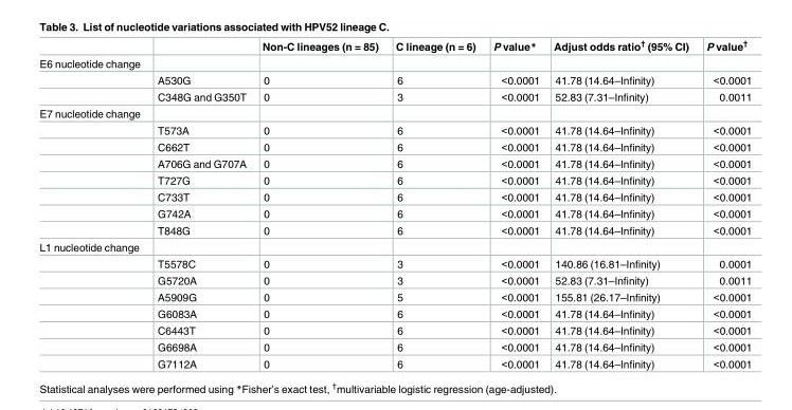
<table><thead><tr><td></td><td></td><td>Non-C lineages (n = 85)</td><td>C lineage (n = 6)</td><td>P value*</td><td>Adjust odds ratio<sup>†</sup> (95% CI)</td><td>P value<sup>†</sup></td></tr></thead><tbody><tr><td colspan="7">E6 nucleotide change</td></tr><tr><td></td><td>A530G</td><td>0</td><td>6</td><td>&lt;0.0001</td><td>41.78 (14.64–Infinity)</td><td>&lt;0.0001</td></tr><tr><td></td><td>C348G and G350T</td><td>0</td><td>3</td><td>&lt;0.0001</td><td>52.83 (7.31–Infinity)</td><td>0.0011</td></tr><tr><td colspan="7">E7 nucleotide change</td></tr><tr><td></td><td>T573A</td><td>0</td><td>6</td><td>&lt;0.0001</td><td>41.78 (14.64–Infinity)</td><td>&lt;0.0001</td></tr><tr><td></td><td>C662T</td><td>0</td><td>6</td><td>&lt;0.0001</td><td>41.78 (14.64–Infinity)</td><td>&lt;0.0001</td></tr><tr><td></td><td>A706G and G707A</td><td>0</td><td>6</td><td>&lt;0.0001</td><td>41.78 (14.64–Infinity)</td><td>&lt;0.0001</td></tr><tr><td></td><td>T727G</td><td>0</td><td>6</td><td>&lt;0.0001</td><td>41.78 (14.64–Infinity)</td><td>&lt;0.0001</td></tr><tr><td></td><td>C733T</td><td>0</td><td>6</td><td>&lt;0.0001</td><td>41.78 (14.64–Infinity)</td><td>&lt;0.0001</td></tr><tr><td></td><td>G742A</td><td>0</td><td>6</td><td>&lt;0.0001</td><td>41.78 (14.64–Infinity)</td><td>&lt;0.0001</td></tr><tr><td></td><td>T848G</td><td>0</td><td>6</td><td>&lt;0.0001</td><td>41.78 (14.64–Infinity)</td><td>&lt;0.0001</td></tr><tr><td colspan="7">L1 nucleotide change</td></tr><tr><td></td><td>T5578C</td><td>0</td><td>3</td><td>&lt;0.0001</td><td>140.86 (16.81–Infinity)</td><td>0.0001</td></tr><tr><td></td><td>G5720A</td><td>0</td><td>3</td><td>&lt;0.0001</td><td>52.83 (7.31–Infinity)</td><td>0.0011</td></tr><tr><td></td><td>A5909G</td><td>0</td><td>5</td><td>&lt;0.0001</td><td>155.81 (26.17–Infinity)</td><td>&lt;0.0001</td></tr><tr><td></td><td>G6083A</td><td>0</td><td>6</td><td>&lt;0.0001</td><td>41.78 (14.64–Infinity)</td><td>&lt;0.0001</td></tr><tr><td></td><td>C6443T</td><td>0</td><td>6</td><td>&lt;0.0001</td><td>41.78 (14.64–Infinity)</td><td>&lt;0.0001</td></tr><tr><td></td><td>G6698A</td><td>0</td><td>6</td><td>&lt;0.0001</td><td>41.78 (14.64–Infinity)</td><td>&lt;0.0001</td></tr><tr><td></td><td>G7112A</td><td>0</td><td>6</td><td>&lt;0.0001</td><td>41.78 (14.64–Infinity)</td><td>&lt;0.0001</td></tr></tbody></table>